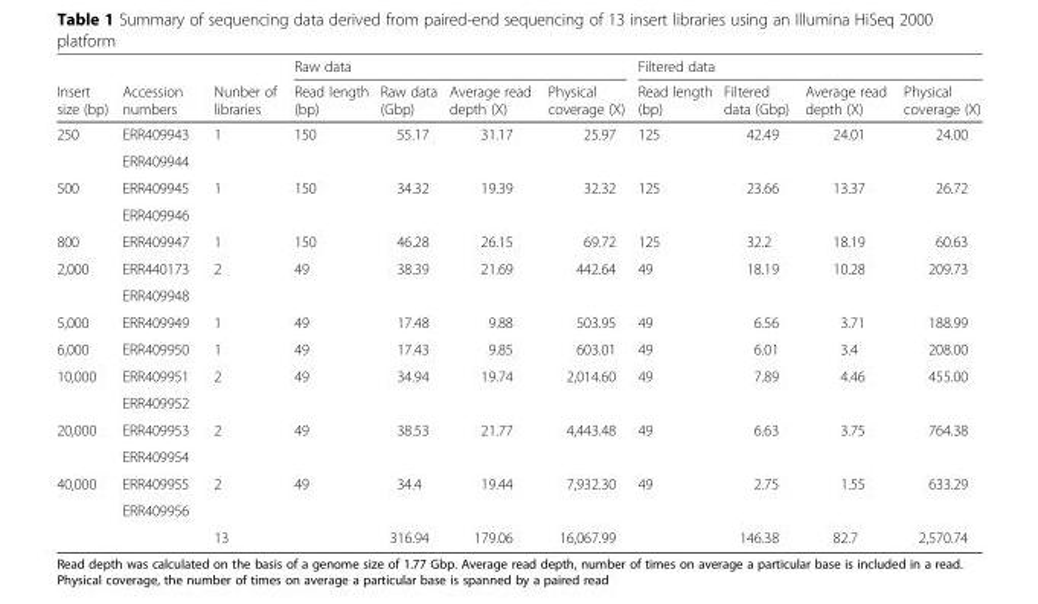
<table><thead><tr><td rowspan="2">Insert size (bp)</td><td rowspan="2">Accession numbers</td><td rowspan="2">Nunber of libraries</td><td colspan="4">Raw data</td><td colspan="4">Filtered data</td></tr><tr><td>Read length (bp)</td><td>Raw data (Gbp)</td><td>Average read depth (X)</td><td>Physical coverage (X)</td><td>Read length (bp)</td><td>Filtered data (Gbp)</td><td>Average read depth (X)</td><td>Physical coverage (X)</td></tr></thead><tbody><tr><td rowspan="2">250</td><td>ERR409943</td><td rowspan="2">1</td><td rowspan="2">150</td><td rowspan="2">55.17</td><td rowspan="2">31.17</td><td rowspan="2">25.97</td><td rowspan="2">125</td><td rowspan="2">42.49</td><td rowspan="2">24.01</td><td rowspan="2">24.00</td></tr><tr><td>ERR409944</td></tr><tr><td rowspan="2">500</td><td>ERR409945</td><td rowspan="2">1</td><td rowspan="2">150</td><td rowspan="2">34.32</td><td rowspan="2">19.39</td><td rowspan="2">32.32</td><td rowspan="2">125</td><td rowspan="2">23.66</td><td rowspan="2">13.37</td><td rowspan="2">26.72</td></tr><tr><td>ERR409946</td></tr><tr><td>800</td><td>ERR409947</td><td>1</td><td>150</td><td>46.28</td><td>26.15</td><td>69.72</td><td>125</td><td>32.2</td><td>18.19</td><td>60.63</td></tr><tr><td rowspan="2">2,000</td><td>ERR440173</td><td rowspan="2">2</td><td rowspan="2">49</td><td rowspan="2">38.39</td><td rowspan="2">21.69</td><td rowspan="2">442.64</td><td rowspan="2">49</td><td rowspan="2">18.19</td><td rowspan="2">10.28</td><td rowspan="2">209.73</td></tr><tr><td>ERR409948</td></tr><tr><td>5,000</td><td>ERR409949</td><td>1</td><td>49</td><td>17.48</td><td>9.88</td><td>503.95</td><td>49</td><td>6.56</td><td>3.71</td><td>188.99</td></tr><tr><td>6,000</td><td>ERR409950</td><td>1</td><td>49</td><td>17.43</td><td>9.85</td><td>603.01</td><td>49</td><td>6.01</td><td>3.4</td><td>208.00</td></tr><tr><td rowspan="2">10,000</td><td>ERR409951</td><td rowspan="2">2</td><td rowspan="2">49</td><td rowspan="2">34.94</td><td rowspan="2">19.74</td><td rowspan="2">2,014.60</td><td rowspan="2">49</td><td rowspan="2">7.89</td><td rowspan="2">4.46</td><td rowspan="2">455.00</td></tr><tr><td>ERR409952</td></tr><tr><td rowspan="2">20,000</td><td>ERR409953</td><td rowspan="2">2</td><td rowspan="2">49</td><td rowspan="2">38.53</td><td rowspan="2">21.77</td><td rowspan="2">4,443.48</td><td rowspan="2">49</td><td rowspan="2">6.63</td><td rowspan="2">3.75</td><td rowspan="2">764.38</td></tr><tr><td>ERR409954</td></tr><tr><td rowspan="3">40,000</td><td>ERR409955</td><td rowspan="2">2</td><td rowspan="2">49</td><td rowspan="2">34.4</td><td rowspan="2">19.44</td><td rowspan="2">7,932.30</td><td rowspan="2">49</td><td rowspan="2">2.75</td><td rowspan="2">1.55</td><td rowspan="2">633.29</td></tr><tr><td>ERR409956</td></tr><tr><td></td><td>13</td><td></td><td>316.94</td><td>179.06</td><td>16,067.99</td><td></td><td>146.38</td><td>82.7</td><td>2,570.74</td></tr></tbody></table>